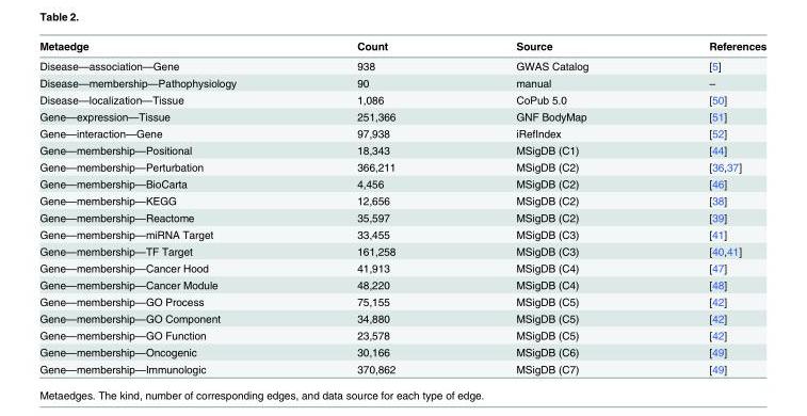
<table><thead><tr><td>Metaedge</td><td>Count</td><td>Source</td><td>References</td></tr></thead><tbody><tr><td>Disease—association—Gene</td><td>938</td><td>GWAS Catalog</td><td>[5]</td></tr><tr><td>Disease—membership—Pathophysiology</td><td>90</td><td>manual</td><td>–</td></tr><tr><td>Disease—localization—Tissue</td><td>1,086</td><td>CoPub 5.0</td><td>[50]</td></tr><tr><td>Gene—expression—Tissue</td><td>251,366</td><td>GNF BodyMap</td><td>[51]</td></tr><tr><td>Gene—interaction—Gene</td><td>97,938</td><td>iRefIndex</td><td>[52]</td></tr><tr><td>Gene—membership—Positional</td><td>18,343</td><td>MSigDB (C1)</td><td>[44]</td></tr><tr><td>Gene—membership—Perturbation</td><td>366,211</td><td>MSigDB (C2)</td><td>[36,37]</td></tr><tr><td>Gene—membership—BioCarta</td><td>4,456</td><td>MSigDB (C2)</td><td>[46]</td></tr><tr><td>Gene—membership—KEGG</td><td>12,656</td><td>MSigDB (C2)</td><td>[38]</td></tr><tr><td>Gene—membership—Reactome</td><td>35,597</td><td>MSigDB (C2)</td><td>[39]</td></tr><tr><td>Gene—membership—miRNA Target</td><td>33,455</td><td>MSigDB (C3)</td><td>[41]</td></tr><tr><td>Gene—membership—TF Target</td><td>161,258</td><td>MSigDB (C3)</td><td>[40,41]</td></tr><tr><td>Gene—membership—Cancer Hood</td><td>41,913</td><td>MSigDB (C4)</td><td>[47]</td></tr><tr><td>Gene—membership—Cancer Module</td><td>48,220</td><td>MSigDB (C4)</td><td>[48]</td></tr><tr><td>Gene—membership—GO Process</td><td>75,155</td><td>MSigDB (C5)</td><td>[42]</td></tr><tr><td>Gene—membership—GO Component</td><td>34,880</td><td>MSigDB (C5)</td><td>[42]</td></tr><tr><td>Gene—membership—GO Function</td><td>23,578</td><td>MSigDB (C5)</td><td>[42]</td></tr><tr><td>Gene—membership—Oncogenic</td><td>30,166</td><td>MSigDB (C6)</td><td>[49]</td></tr><tr><td>Gene—membership—Immunologic</td><td>370,862</td><td>MSigDB (C7)</td><td>[49]</td></tr></tbody></table>